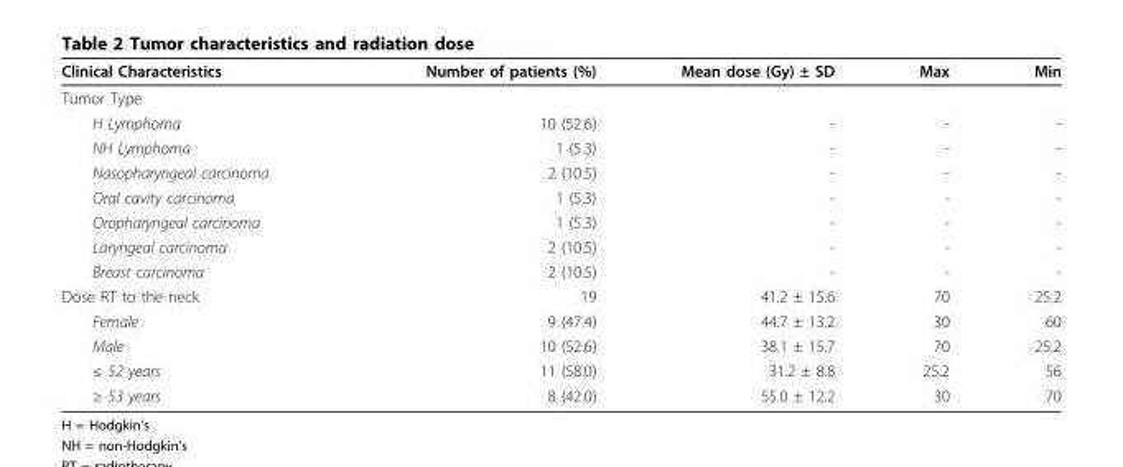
<table><thead><tr><td>Clinical Characteristics</td><td>Number of patients (%)</td><td>Mean dose (Gy) ± SD</td><td>Max</td><td>Min</td></tr></thead><tbody><tr><td colspan="5">Tumor Type</td></tr><tr><td>H Lymphoma</td><td>10 (52.6)</td><td>-</td><td>-</td><td>-</td></tr><tr><td>NH Lymphoma</td><td>1 (5.3)</td><td>-</td><td>-</td><td>-</td></tr><tr><td>Nasopharyngeal carcinoma</td><td>2 (10.5)</td><td>-</td><td>-</td><td>-</td></tr><tr><td>Oral cavity carcinoma</td><td>1 (5.3)</td><td>-</td><td>-</td><td>-</td></tr><tr><td>Oropharyngeal carcinoma</td><td>1 (5.3)</td><td>-</td><td>-</td><td>-</td></tr><tr><td>Laryngeal carcinoma</td><td>2 (10.5)</td><td>-</td><td>-</td><td>-</td></tr><tr><td>Breast carcinoma</td><td>2 (10.5)</td><td>-</td><td>-</td><td>-</td></tr><tr><td>Dose RT to the neck</td><td>19</td><td>41.2 ± 15.6</td><td>70</td><td>25.2</td></tr><tr><td>Female</td><td>9 (47.4)</td><td>44.7 ± 13.2</td><td>30</td><td>60</td></tr><tr><td>Male</td><td>10 (52.6)</td><td>38.1 ± 15.7</td><td>70</td><td>25.2</td></tr><tr><td>≤ 52 years</td><td>11 (58.0)</td><td>31.2 ± 8.8</td><td>25.2</td><td>56</td></tr><tr><td>≥ 53 years</td><td>8 (42.0)</td><td>55.0 ± 12.2</td><td>30</td><td>70</td></tr></tbody></table>